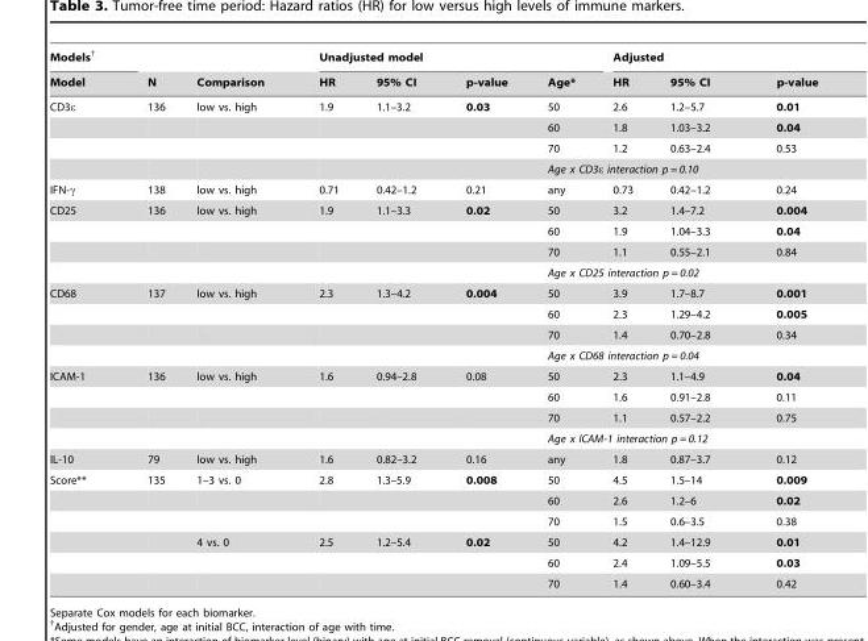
<table><thead><tr><td rowspan="2">Models† Model</td><td rowspan="2">N</td><td rowspan="2">Comparison</td><td colspan="4">Unadjusted model</td><td colspan="3">Adjusted</td></tr><tr><td>HR</td><td>95% CI</td><td>p-value</td><td>Age*</td><td>HR</td><td>95% CI</td><td>p-value</td></tr></thead><tbody><tr><td rowspan="4">CD3ε</td><td>136</td><td>low vs. high</td><td>1.9</td><td>1.1–3.2</td><td>0.03</td><td>50</td><td>2.6</td><td>1.2–5.7</td><td>0.01</td></tr><tr><td></td><td></td><td></td><td></td><td></td><td>60</td><td>1.8</td><td>1.03–3.2</td><td>0.04</td></tr><tr><td></td><td></td><td></td><td></td><td></td><td>70</td><td>1.2</td><td>0.63–2.4</td><td>0.53</td></tr><tr><td></td><td></td><td></td><td></td><td></td><td colspan="4">Age x CD3ε interaction p = 0.10</td></tr><tr><td>IFN-γ</td><td>138</td><td>low vs. high</td><td>0.71</td><td>0.42–1.2</td><td>0.21</td><td>any</td><td>0.73</td><td>0.42–1.2</td><td>0.24</td></tr><tr><td rowspan="4">CD25</td><td>136</td><td>low vs. high</td><td>1.9</td><td>1.1–3.3</td><td>0.02</td><td>50</td><td>3.2</td><td>1.4–7.2</td><td>0.004</td></tr><tr><td></td><td></td><td></td><td></td><td></td><td>60</td><td>1.9</td><td>1.04–3.3</td><td>0.04</td></tr><tr><td></td><td></td><td></td><td></td><td></td><td>70</td><td>1.1</td><td>0.55–2.1</td><td>0.84</td></tr><tr><td></td><td></td><td></td><td></td><td></td><td colspan="4">Age x CD25 interaction p = 0.02</td></tr><tr><td rowspan="4">CD68</td><td>137</td><td>low vs. high</td><td>2.3</td><td>1.3–4.2</td><td>0.004</td><td>50</td><td>3.9</td><td>1.7–8.7</td><td>0.001</td></tr><tr><td></td><td></td><td></td><td></td><td></td><td>60</td><td>2.3</td><td>1.29–4.2</td><td>0.005</td></tr><tr><td></td><td></td><td></td><td></td><td></td><td>70</td><td>1.4</td><td>0.70–2.8</td><td>0.34</td></tr><tr><td></td><td></td><td></td><td></td><td></td><td colspan="4">Age x CD68 interaction p = 0.04</td></tr><tr><td rowspan="4">ICAM-1</td><td>136</td><td>low vs. high</td><td>1.6</td><td>0.94–2.8</td><td>0.08</td><td>50</td><td>2.3</td><td>1.1–4.9</td><td>0.04</td></tr><tr><td></td><td></td><td></td><td></td><td></td><td>60</td><td>1.6</td><td>0.91–2.8</td><td>0.11</td></tr><tr><td></td><td></td><td></td><td></td><td></td><td>70</td><td>1.1</td><td>0.57–2.2</td><td>0.75</td></tr><tr><td></td><td></td><td></td><td></td><td></td><td colspan="4">Age x ICAM-1 interaction p = 0.12</td></tr><tr><td>IL-10</td><td>79</td><td>low vs. high</td><td>1.6</td><td>0.82–3.2</td><td>0.16</td><td>any</td><td>1.8</td><td>0.87–3.7</td><td>0.12</td></tr><tr><td rowspan="6">Score**</td><td>135</td><td>1–3 vs. 0</td><td>2.8</td><td>1.3–5.9</td><td>0.008</td><td>50</td><td>4.5</td><td>1.5–14</td><td>0.009</td></tr><tr><td></td><td></td><td></td><td></td><td></td><td>60</td><td>2.6</td><td>1.2–6</td><td>0.02</td></tr><tr><td></td><td></td><td></td><td></td><td></td><td>70</td><td>1.5</td><td>0.6–3.5</td><td>0.38</td></tr><tr><td></td><td>4 vs. 0</td><td>2.5</td><td>1.2–5.4</td><td>0.02</td><td>50</td><td>4.2</td><td>1.4–12.9</td><td>0.01</td></tr><tr><td></td><td></td><td></td><td></td><td></td><td>60</td><td>2.4</td><td>1.09–5.5</td><td>0.03</td></tr><tr><td></td><td></td><td></td><td></td><td></td><td>70</td><td>1.4</td><td>0.60–3.4</td><td>0.42</td></tr></tbody></table>